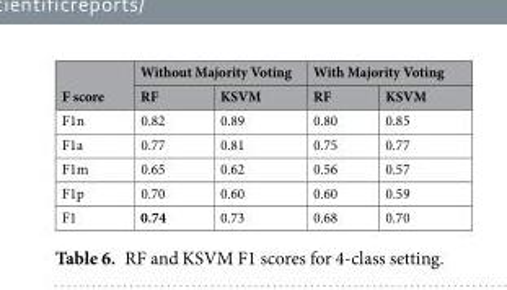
<table><thead><tr><td rowspan="2">F score</td><td colspan="2">Without Majority Voting</td><td colspan="2">With Majority Voting</td></tr><tr><td>RF</td><td>KSVM</td><td>RF</td><td>KSVM</td></tr></thead><tbody><tr><td>F1n</td><td>0.82</td><td>0.89</td><td>0.80</td><td>0.85</td></tr><tr><td>F1a</td><td>0.77</td><td>0.81</td><td>0.75</td><td>0.77</td></tr><tr><td>F1m</td><td>0.65</td><td>0.62</td><td>0.56</td><td>0.57</td></tr><tr><td>F1p</td><td>0.70</td><td>0.60</td><td>0.60</td><td>0.59</td></tr><tr><td>F1</td><td>0.74</td><td>0.73</td><td>0.68</td><td>0.70</td></tr></tbody></table>